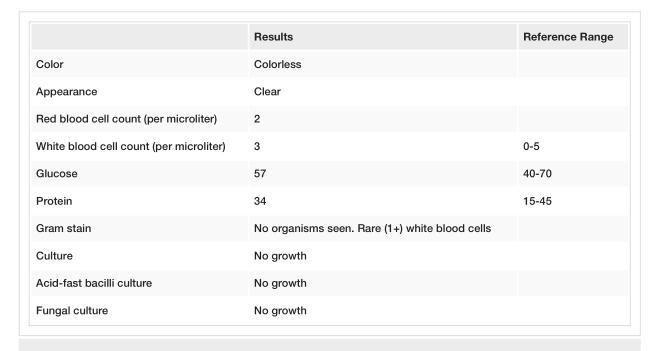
<table><thead><tr><td></td><td>Results</td><td>Reference Range</td></tr></thead><tbody><tr><td>Color</td><td>Colorless</td><td></td></tr><tr><td>Appearance</td><td>Clear</td><td></td></tr><tr><td>Red blood cell count (per microliter)</td><td>2</td><td></td></tr><tr><td>White blood cell count (per microliter)</td><td>3</td><td>0-5</td></tr><tr><td>Glucose</td><td>57</td><td>40-70</td></tr><tr><td>Protein</td><td>34</td><td>15-45</td></tr><tr><td>Gram stain</td><td>No organisms seen. Rare (1+) white blood cells</td><td></td></tr><tr><td>Culture</td><td>No growth</td><td></td></tr><tr><td>Acid-fast bacilli culture</td><td>No growth</td><td></td></tr><tr><td>Fungal culture</td><td>No growth</td><td></td></tr></tbody></table>